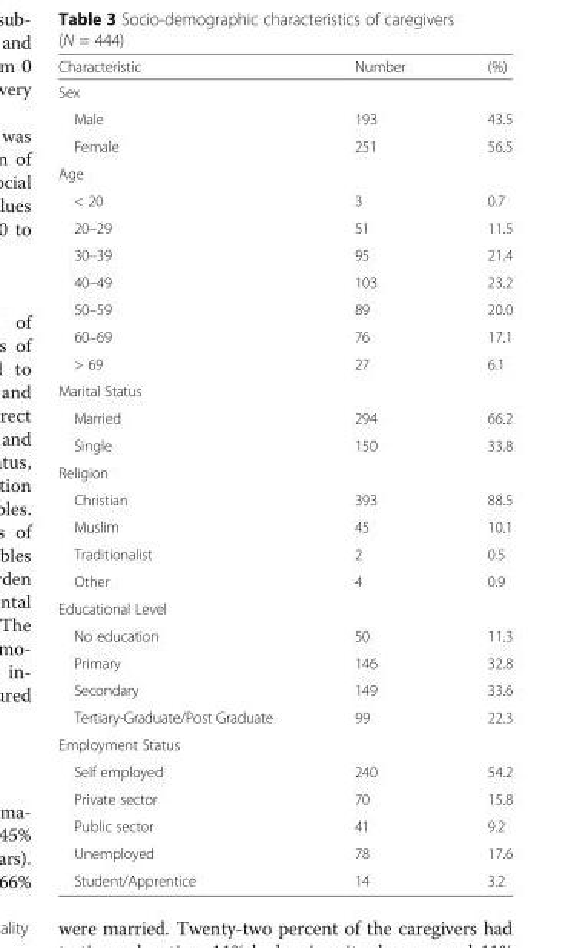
<table><thead><tr><td>Characteristic</td><td>Number</td><td>(%)</td></tr></thead><tbody><tr><td colspan="3">Sex</td></tr><tr><td>Male</td><td>193</td><td>43.5</td></tr><tr><td>Female</td><td>251</td><td>56.5</td></tr><tr><td colspan="3">Age</td></tr><tr><td>&lt; 20</td><td>3</td><td>0.7</td></tr><tr><td>20–29</td><td>51</td><td>11.5</td></tr><tr><td>30–39</td><td>95</td><td>21.4</td></tr><tr><td>40–49</td><td>103</td><td>23.2</td></tr><tr><td>50–59</td><td>89</td><td>20.0</td></tr><tr><td>60–69</td><td>76</td><td>17.1</td></tr><tr><td>&gt; 69</td><td>27</td><td>6.1</td></tr><tr><td colspan="3">Marital Status</td></tr><tr><td>Married</td><td>294</td><td>66.2</td></tr><tr><td>Single</td><td>150</td><td>33.8</td></tr><tr><td colspan="3">Religion</td></tr><tr><td>Christian</td><td>393</td><td>88.5</td></tr><tr><td>Muslim</td><td>45</td><td>10.1</td></tr><tr><td>Traditionalist</td><td>2</td><td>0.5</td></tr><tr><td>Other</td><td>4</td><td>0.9</td></tr><tr><td colspan="3">Educational Level</td></tr><tr><td>No education</td><td>50</td><td>11.3</td></tr><tr><td>Primary</td><td>146</td><td>32.8</td></tr><tr><td>Secondary</td><td>149</td><td>33.6</td></tr><tr><td>Tertiary-Graduate/Post Graduate</td><td>99</td><td>22.3</td></tr><tr><td colspan="3">Employment Status</td></tr><tr><td>Self employed</td><td>240</td><td>54.2</td></tr><tr><td>Private sector</td><td>70</td><td>15.8</td></tr><tr><td>Public sector</td><td>41</td><td>9.2</td></tr><tr><td>Unemployed</td><td>78</td><td>17.6</td></tr><tr><td>Student/Apprentice</td><td>14</td><td>3.2</td></tr></tbody></table>